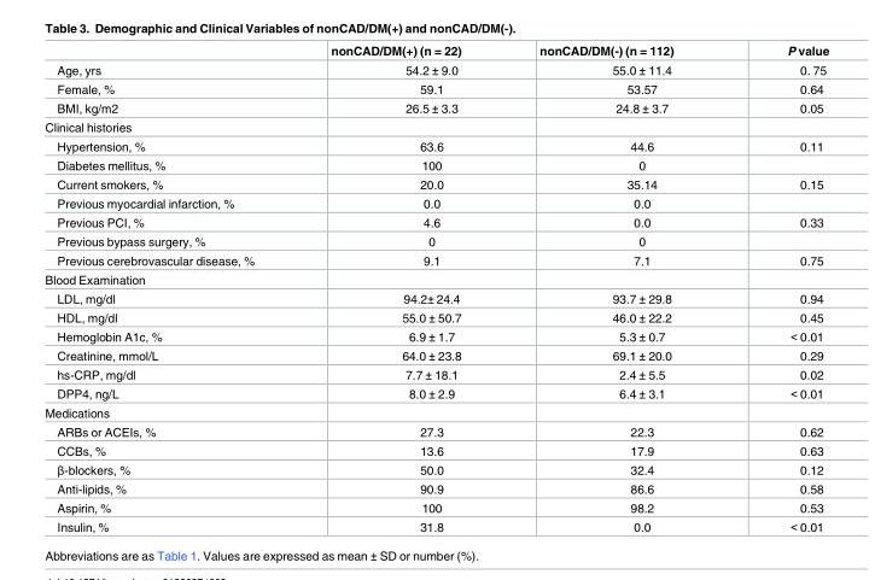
<table><thead><tr><td></td><td>nonCAD/DM(+) (n = 22)</td><td>nonCAD/DM(-) (n = 112)</td><td>P value</td></tr></thead><tbody><tr><td>Age, yrs</td><td>54.2 ± 9.0</td><td>55.0 ± 11.4</td><td>0. 75</td></tr><tr><td>Female, %</td><td>59.1</td><td>53.57</td><td>0.64</td></tr><tr><td>BMI, kg/m2</td><td>26.5 ± 3.3</td><td>24.8 ± 3.7</td><td>0.05</td></tr><tr><td colspan="4">Clinical histories</td></tr><tr><td>Hypertension, %</td><td>63.6</td><td>44.6</td><td>0.11</td></tr><tr><td>Diabetes mellitus, %</td><td>100</td><td>0</td><td></td></tr><tr><td>Current smokers, %</td><td>20.0</td><td>35.14</td><td>0.15</td></tr><tr><td>Previous myocardial infarction, %</td><td>0.0</td><td>0.0</td><td></td></tr><tr><td>Previous PCI, %</td><td>4.6</td><td>0.0</td><td>0.33</td></tr><tr><td>Previous bypass surgery, %</td><td>0</td><td>0</td><td></td></tr><tr><td>Previous cerebrovascular disease, %</td><td>9.1</td><td>7.1</td><td>0.75</td></tr><tr><td colspan="4">Blood Examination</td></tr><tr><td>LDL, mg/dl</td><td>94.2± 24.4</td><td>93.7 ± 29.8</td><td>0.94</td></tr><tr><td>HDL, mg/dl</td><td>55.0 ± 50.7</td><td>46.0 ± 22.2</td><td>0.45</td></tr><tr><td>Hemoglobin A1c, %</td><td>6.9 ± 1.7</td><td>5.3 ± 0.7</td><td>&lt; 0.01</td></tr><tr><td>Creatinine, mmol/L</td><td>64.0 ± 23.8</td><td>69.1 ± 20.0</td><td>0.29</td></tr><tr><td>hs-CRP, mg/dl</td><td>7.7 ± 18.1</td><td>2.4 ± 5.5</td><td>0.02</td></tr><tr><td>DPP4, ng/L</td><td>8.0 ± 2.9</td><td>6.4 ± 3.1</td><td>&lt; 0.01</td></tr><tr><td colspan="4">Medications</td></tr><tr><td>ARBs or ACEIs, %</td><td>27.3</td><td>22.3</td><td>0.62</td></tr><tr><td>CCBs, %</td><td>13.6</td><td>17.9</td><td>0.63</td></tr><tr><td>β-blockers, %</td><td>50.0</td><td>32.4</td><td>0.12</td></tr><tr><td>Anti-lipids, %</td><td>90.9</td><td>86.6</td><td>0.58</td></tr><tr><td>Aspirin, %</td><td>100</td><td>98.2</td><td>0.53</td></tr><tr><td>Insulin, %</td><td>31.8</td><td>0.0</td><td>&lt; 0.01</td></tr></tbody></table>